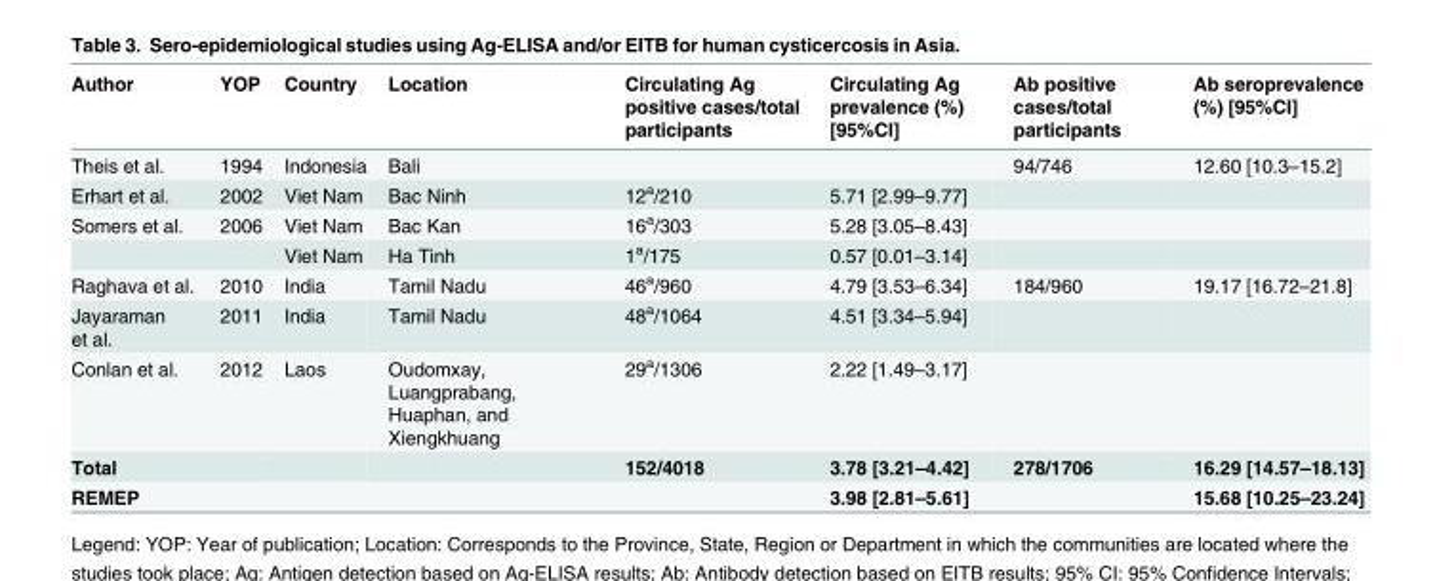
<table><thead><tr><td>Author</td><td>YOP</td><td>Country</td><td>Location</td><td>Circulating Ag positive cases/total participants</td><td>Circulating Ag prevalence (%) [95%CI]</td><td>Ab positive cases/total participants</td><td>Ab seroprevalence (%) [95%CI]</td></tr></thead><tbody><tr><td>Theis et al.</td><td>1994</td><td>Indonesia</td><td>Bali</td><td></td><td></td><td>94/746</td><td>12.60 [10.3–15.2]</td></tr><tr><td>Erhart et al.</td><td>2002</td><td>Viet Nam</td><td>Bac Ninh</td><td>12<sup>a</sup>/210</td><td>5.71 [2.99–9.77]</td><td></td><td></td></tr><tr><td rowspan="2">Somers et al.</td><td>2006</td><td>Viet Nam</td><td>Bac Kan</td><td>16<sup>a</sup>/303</td><td>5.28 [3.05–8.43]</td><td></td><td></td></tr><tr><td></td><td>Viet Nam</td><td>Ha Tinh</td><td>1<sup>a</sup>/175</td><td>0.57 [0.01–3.14]</td><td></td><td></td></tr><tr><td>Raghava et al.</td><td>2010</td><td>India</td><td>Tamil Nadu</td><td>46<sup>a</sup>/960</td><td>4.79 [3.53–6.34]</td><td>184/960</td><td>19.17 [16.72–21.8]</td></tr><tr><td>Jayaraman et al.</td><td>2011</td><td>India</td><td>Tamil Nadu</td><td>48<sup>a</sup>/1064</td><td>4.51 [3.34–5.94]</td><td></td><td></td></tr><tr><td>Conlan et al.</td><td>2012</td><td>Laos</td><td>Oudomxay, Luangprabang, Huaphan, and Xiengkhuang</td><td>29<sup>a</sup>/1306</td><td>2.22 [1.49–3.17]</td><td></td><td></td></tr><tr><td>Total</td><td></td><td></td><td></td><td>152/4018</td><td>3.78 [3.21–4.42]</td><td>278/1706</td><td>16.29 [14.57–18.13]</td></tr><tr><td>REMEP</td><td></td><td></td><td></td><td></td><td>3.98 [2.81–5.61]</td><td></td><td>15.68 [10.25–23.24]</td></tr></tbody></table>